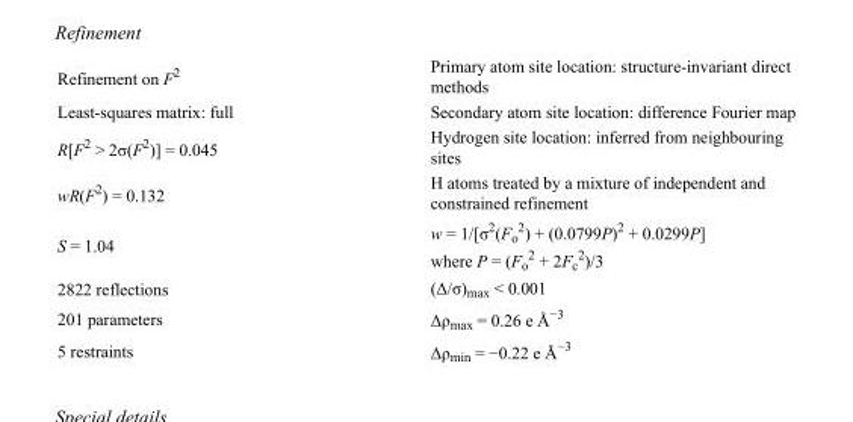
<table><tbody><tr><td>Refinement on F<sup>2</sup></td><td>Primary atom site location: structure-invariant direct methods</td></tr><tr><td>Least-squares matrix: full</td><td>Secondary atom site location: difference Fourier map</td></tr><tr><td>R[F<sup>2</sup> &gt; 2σ(F<sup>2</sup>)] = 0.045</td><td>Hydrogen site location: inferred from neighbouring sites</td></tr><tr><td>wR(F<sup>2</sup>) = 0.132</td><td>H atoms treated by a mixture of independent and constrained refinement</td></tr><tr><td>S = 1.04</td><td>w = 1/[σ<sup>2</sup>(F<sub>o</sub> <sup>2</sup>) + (0.0799P)<sup>2</sup> + 0.0299P] where P = (F<sub>o</sub> <sup>2</sup> + 2F<sub>c</sub> <sup>2</sup>)/3</td></tr><tr><td>2822 reflections</td><td>(Δ/σ)<sub>max</sub> &lt; 0.001</td></tr><tr><td>201 parameters</td><td>Δρ<sub>max</sub> = 0.26 e Å<sup>−3</sup></td></tr><tr><td>5 restraints</td><td>Δρ<sub>min</sub> = −0.22 e Å<sup>−3</sup></td></tr></tbody></table>